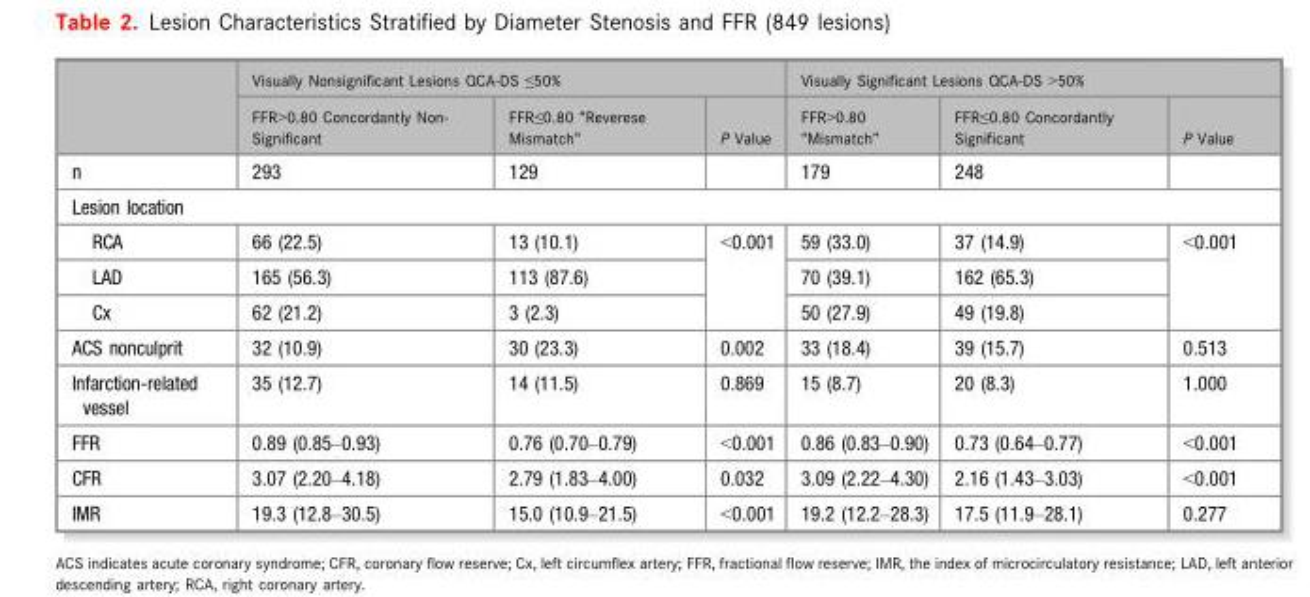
<table><thead><tr><td rowspan="2"></td><td colspan="3">Visually Nonsignificant Lesions QCA-DS ≤50%</td><td colspan="3">Visually Significant Lesions QCA-DS &gt;50%</td></tr><tr><td>FFR&gt;0.80 Concordantly Non- Significant</td><td>FFR≤0.80 “Reverese Mismatch”</td><td>P Value</td><td>FFR&gt;0.80 “Mismatch”</td><td>FFR≤0.80 Concordantly Significant</td><td>P Value</td></tr></thead><tbody><tr><td>n</td><td>293</td><td>129</td><td></td><td>179</td><td>248</td><td></td></tr><tr><td colspan="7">Lesion location</td></tr><tr><td>RCA</td><td>66 (22.5)</td><td>13 (10.1)</td><td rowspan="3">&lt;0.001</td><td>59 (33.0)</td><td>37 (14.9)</td><td rowspan="3">&lt;0.001</td></tr><tr><td>LAD</td><td>165 (56.3)</td><td>113 (87.6)</td><td>70 (39.1)</td><td>162 (65.3)</td></tr><tr><td>Cx</td><td>62 (21.2)</td><td>3 (2.3)</td><td>50 (27.9)</td><td>49 (19.8)</td></tr><tr><td>ACS nonculprit</td><td>32 (10.9)</td><td>30 (23.3)</td><td>0.002</td><td>33 (18.4)</td><td>39 (15.7)</td><td>0.513</td></tr><tr><td>Infarction-related vessel</td><td>35 (12.7)</td><td>14 (11.5)</td><td>0.869</td><td>15 (8.7)</td><td>20 (8.3)</td><td>1.000</td></tr><tr><td>FFR</td><td>0.89 (0.85–0.93)</td><td>0.76 (0.70–0.79)</td><td>&lt;0.001</td><td>0.86 (0.83–0.90)</td><td>0.73 (0.64–0.77)</td><td>&lt;0.001</td></tr><tr><td>CFR</td><td>3.07 (2.20–4.18)</td><td>2.79 (1.83–4.00)</td><td>0.032</td><td>3.09 (2.22–4.30)</td><td>2.16 (1.43–3.03)</td><td>&lt;0.001</td></tr><tr><td>IMR</td><td>19.3 (12.8–30.5)</td><td>15.0 (10.9–21.5)</td><td>&lt;0.001</td><td>19.2 (12.2–28.3)</td><td>17.5 (11.9–28.1)</td><td>0.277</td></tr></tbody></table>